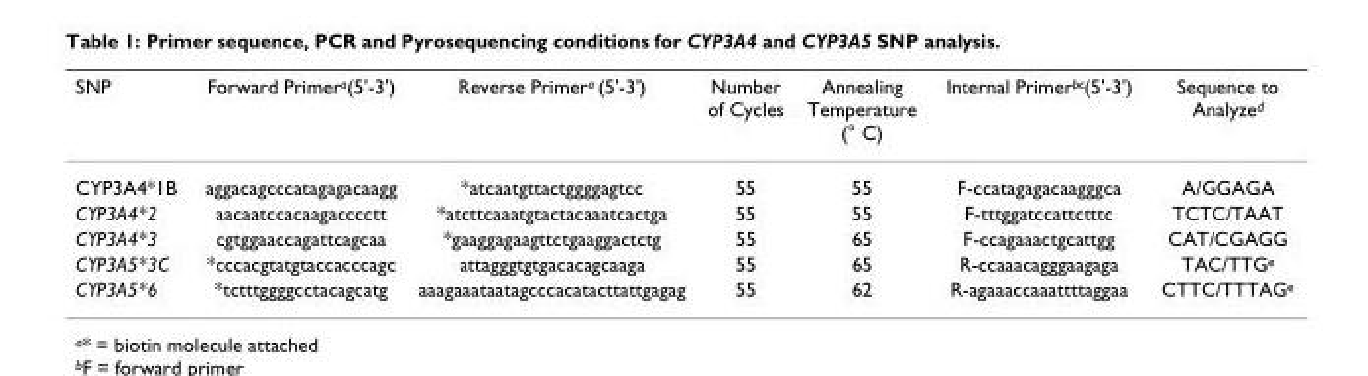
<table><thead><tr><td>SNP</td><td>Forward Primera(5&#x27;-3&#x27;)</td><td>Reverse Primera (5&#x27;-3&#x27;)</td><td>Number of Cycles</td><td>Annealing Temperature (° C)</td><td>Internal Primerbc(5&#x27;-3&#x27;)</td><td>Sequence to Analyzed</td></tr></thead><tbody><tr><td>CYP3A4*1B</td><td>aggacagcccatagagacaagg</td><td>*atcaatgttactggggagtcc</td><td>55</td><td>55</td><td>F-ccatagagacaagggca</td><td>A/GGAGA</td></tr><tr><td>CYP3A4*2</td><td>aacaatccacaagacccctt</td><td>*atcttcaaatgtactacaaatcactga</td><td>55</td><td>55</td><td>F-tttggatccattctttc</td><td>TCTC/TAAT</td></tr><tr><td>CYP3A4*3</td><td>cgtggaaccagattcagcaa</td><td>*gaaggagaagttctgaaggactctg</td><td>55</td><td>65</td><td>F-ccagaaactgcattgg</td><td>CAT/CGAGG</td></tr><tr><td>CYP3A5*3C</td><td>*cccacgtatgtaccacccagc</td><td>attagggtgtgacacagcaaga</td><td>55</td><td>65</td><td>R-ccaaacagggaagaga</td><td>TAC/TTGe</td></tr><tr><td>CYP3A5*6</td><td>*tctttggggcctacagcatg</td><td>aaagaaataatagcccacatacttattgagag</td><td>55</td><td>62</td><td>R-agaaaccaaattttaggaa</td><td>CTTC/TTTAGe</td></tr></tbody></table>